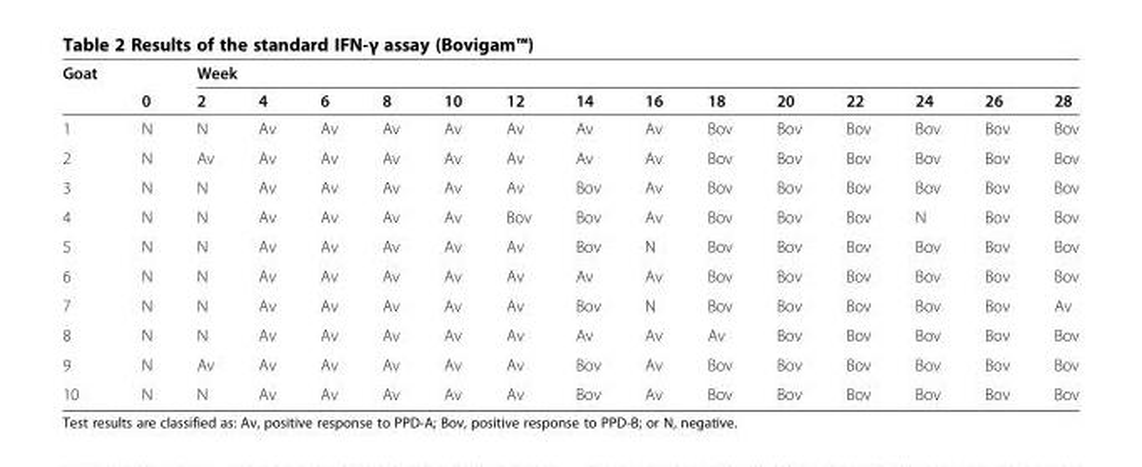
<table><thead><tr><td colspan="2">Goat</td><td colspan="14">Week</td></tr><tr><td></td><td>0</td><td>2</td><td>4</td><td>6</td><td>8</td><td>10</td><td>12</td><td>14</td><td>16</td><td>18</td><td>20</td><td>22</td><td>24</td><td>26</td><td>28</td></tr></thead><tbody><tr><td>1</td><td>N</td><td>N</td><td>Av</td><td>Av</td><td>Av</td><td>Av</td><td>Av</td><td>Av</td><td>Av</td><td>Bov</td><td>Bov</td><td>Bov</td><td>Bov</td><td>Bov</td><td>Bov</td></tr><tr><td>2</td><td>N</td><td>Av</td><td>Av</td><td>Av</td><td>Av</td><td>Av</td><td>Av</td><td>Av</td><td>Av</td><td>Bov</td><td>Bov</td><td>Bov</td><td>Bov</td><td>Bov</td><td>Bov</td></tr><tr><td>3</td><td>N</td><td>N</td><td>Av</td><td>Av</td><td>Av</td><td>Av</td><td>Av</td><td>Bov</td><td>Av</td><td>Bov</td><td>Bov</td><td>Bov</td><td>Bov</td><td>Bov</td><td>Bov</td></tr><tr><td>4</td><td>N</td><td>N</td><td>Av</td><td>Av</td><td>Av</td><td>Av</td><td>Bov</td><td>Bov</td><td>Av</td><td>Bov</td><td>Bov</td><td>Bov</td><td>N</td><td>Bov</td><td>Bov</td></tr><tr><td>5</td><td>N</td><td>N</td><td>Av</td><td>Av</td><td>Av</td><td>Av</td><td>Av</td><td>Bov</td><td>N</td><td>Bov</td><td>Bov</td><td>Bov</td><td>Bov</td><td>Bov</td><td>Bov</td></tr><tr><td>6</td><td>N</td><td>N</td><td>Av</td><td>Av</td><td>Av</td><td>Av</td><td>Av</td><td>Av</td><td>Av</td><td>Bov</td><td>Bov</td><td>Bov</td><td>Bov</td><td>Bov</td><td>Bov</td></tr><tr><td>7</td><td>N</td><td>N</td><td>Av</td><td>Av</td><td>Av</td><td>Av</td><td>Av</td><td>Bov</td><td>N</td><td>Bov</td><td>Bov</td><td>Bov</td><td>Bov</td><td>Bov</td><td>Av</td></tr><tr><td>8</td><td>N</td><td>N</td><td>Av</td><td>Av</td><td>Av</td><td>Av</td><td>Av</td><td>Av</td><td>Av</td><td>Av</td><td>Bov</td><td>Bov</td><td>Bov</td><td>Bov</td><td>Bov</td></tr><tr><td>9</td><td>N</td><td>Av</td><td>Av</td><td>Av</td><td>Av</td><td>Av</td><td>Av</td><td>Bov</td><td>Av</td><td>Bov</td><td>Bov</td><td>Bov</td><td>Bov</td><td>Bov</td><td>Bov</td></tr><tr><td>10</td><td>N</td><td>N</td><td>Av</td><td>Av</td><td>Av</td><td>Av</td><td>Av</td><td>Bov</td><td>Av</td><td>Bov</td><td>Bov</td><td>Bov</td><td>Bov</td><td>Bov</td><td>Bov</td></tr></tbody></table>